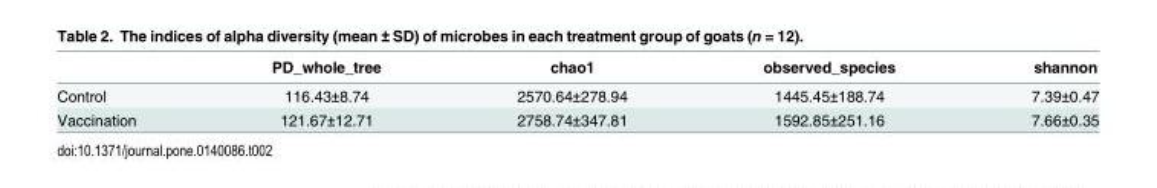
<table><thead><tr><td></td><td>PD_whole_tree</td><td>chao1</td><td>observed_species</td><td>shannon</td></tr></thead><tbody><tr><td>Control</td><td>116.43±8.74</td><td>2570.64±278.94</td><td>1445.45±188.74</td><td>7.39±0.47</td></tr><tr><td>Vaccination</td><td>121.67±12.71</td><td>2758.74±347.81</td><td>1592.85±251.16</td><td>7.66±0.35</td></tr></tbody></table>